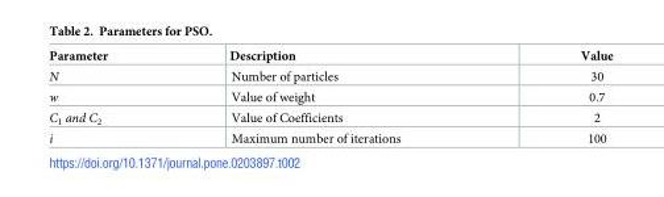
<table><thead><tr><td>Parameter</td><td>Description</td><td>Value</td></tr></thead><tbody><tr><td>N</td><td>Number of particles</td><td>30</td></tr><tr><td>w</td><td>Value of weight</td><td>0.7</td></tr><tr><td>C<sub>1</sub> and C<sub>2</sub></td><td>Value of Coefficients</td><td>2</td></tr><tr><td>i</td><td>Maximum number of iterations</td><td>100</td></tr></tbody></table>